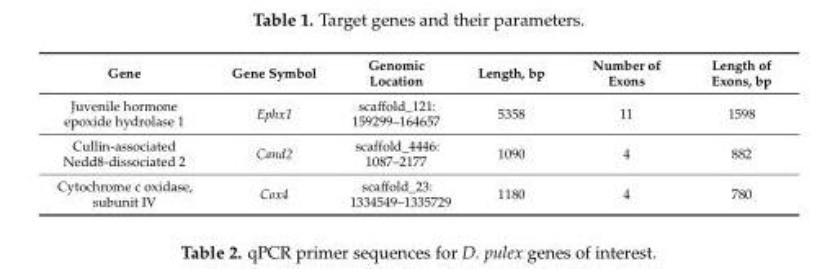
<table><thead><tr><td>Gene</td><td>Gene Symbol</td><td>Genomic Location</td><td>Length, bp</td><td>Number of Exons</td><td>Length of Exons, bp</td></tr></thead><tbody><tr><td>Juvenile hormone epoxide hydrolase 1</td><td>Ephx1</td><td>scaffold_121: 159299–164657</td><td>5358</td><td>11</td><td>1598</td></tr><tr><td>Cullin-associated Nedd8-dissociated 2</td><td>Cand2</td><td>scaffold_4446: 1087–2177</td><td>1090</td><td>4</td><td>882</td></tr><tr><td>Cytochrome c oxidase, subunit IV</td><td>Cox4</td><td>scaffold_23: 1334549–1335729</td><td>1180</td><td>4</td><td>780</td></tr></tbody></table>